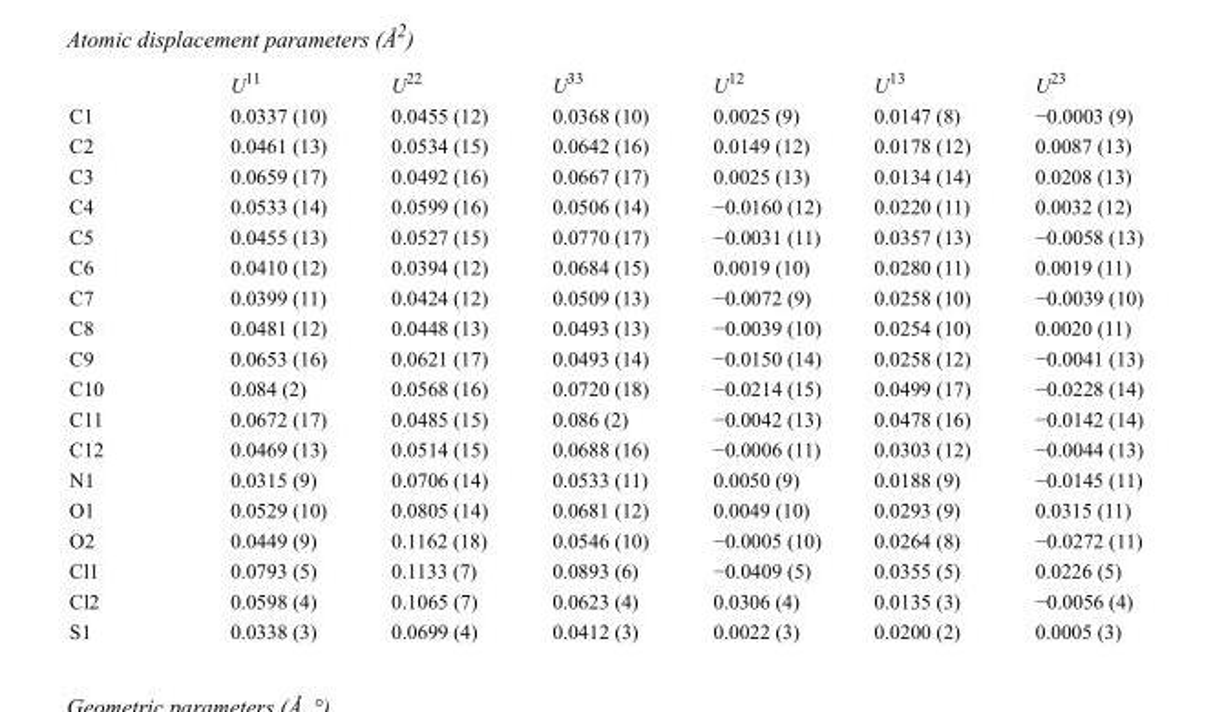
<table><thead><tr><td></td><td>U<sup>11</sup></td><td>U<sup>22</sup></td><td>U<sup>33</sup></td><td>U<sup>12</sup></td><td>U<sup>13</sup></td><td>U<sup>23</sup></td></tr></thead><tbody><tr><td>C1</td><td>0.0337 (10)</td><td>0.0455 (12)</td><td>0.0368 (10)</td><td>0.0025 (9)</td><td>0.0147 (8)</td><td>−0.0003 (9)</td></tr><tr><td>C2</td><td>0.0461 (13)</td><td>0.0534 (15)</td><td>0.0642 (16)</td><td>0.0149 (12)</td><td>0.0178 (12)</td><td>0.0087 (13)</td></tr><tr><td>C3</td><td>0.0659 (17)</td><td>0.0492 (16)</td><td>0.0667 (17)</td><td>0.0025 (13)</td><td>0.0134 (14)</td><td>0.0208 (13)</td></tr><tr><td>C4</td><td>0.0533 (14)</td><td>0.0599 (16)</td><td>0.0506 (14)</td><td>−0.0160 (12)</td><td>0.0220 (11)</td><td>0.0032 (12)</td></tr><tr><td>C5</td><td>0.0455 (13)</td><td>0.0527 (15)</td><td>0.0770 (17)</td><td>−0.0031 (11)</td><td>0.0357 (13)</td><td>−0.0058 (13)</td></tr><tr><td>C6</td><td>0.0410 (12)</td><td>0.0394 (12)</td><td>0.0684 (15)</td><td>0.0019 (10)</td><td>0.0280 (11)</td><td>0.0019 (11)</td></tr><tr><td>C7</td><td>0.0399 (11)</td><td>0.0424 (12)</td><td>0.0509 (13)</td><td>−0.0072 (9)</td><td>0.0258 (10)</td><td>−0.0039 (10)</td></tr><tr><td>C8</td><td>0.0481 (12)</td><td>0.0448 (13)</td><td>0.0493 (13)</td><td>−0.0039 (10)</td><td>0.0254 (10)</td><td>0.0020 (11)</td></tr><tr><td>C9</td><td>0.0653 (16)</td><td>0.0621 (17)</td><td>0.0493 (14)</td><td>−0.0150 (14)</td><td>0.0258 (12)</td><td>−0.0041 (13)</td></tr><tr><td>C10</td><td>0.084 (2)</td><td>0.0568 (16)</td><td>0.0720 (18)</td><td>−0.0214 (15)</td><td>0.0499 (17)</td><td>−0.0228 (14)</td></tr><tr><td>C11</td><td>0.0672 (17)</td><td>0.0485 (15)</td><td>0.086 (2)</td><td>−0.0042 (13)</td><td>0.0478 (16)</td><td>−0.0142 (14)</td></tr><tr><td>C12</td><td>0.0469 (13)</td><td>0.0514 (15)</td><td>0.0688 (16)</td><td>−0.0006 (11)</td><td>0.0303 (12)</td><td>−0.0044 (13)</td></tr><tr><td>N1</td><td>0.0315 (9)</td><td>0.0706 (14)</td><td>0.0533 (11)</td><td>0.0050 (9)</td><td>0.0188 (9)</td><td>−0.0145 (11)</td></tr><tr><td>O1</td><td>0.0529 (10)</td><td>0.0805 (14)</td><td>0.0681 (12)</td><td>0.0049 (10)</td><td>0.0293 (9)</td><td>0.0315 (11)</td></tr><tr><td>O2</td><td>0.0449 (9)</td><td>0.1162 (18)</td><td>0.0546 (10)</td><td>−0.0005 (10)</td><td>0.0264 (8)</td><td>−0.0272 (11)</td></tr><tr><td>Cl1</td><td>0.0793 (5)</td><td>0.1133 (7)</td><td>0.0893 (6)</td><td>−0.0409 (5)</td><td>0.0355 (5)</td><td>0.0226 (5)</td></tr><tr><td>Cl2</td><td>0.0598 (4)</td><td>0.1065 (7)</td><td>0.0623 (4)</td><td>0.0306 (4)</td><td>0.0135 (3)</td><td>−0.0056 (4)</td></tr><tr><td>S1</td><td>0.0338 (3)</td><td>0.0699 (4)</td><td>0.0412 (3)</td><td>0.0022 (3)</td><td>0.0200 (2)</td><td>0.0005 (3)</td></tr></tbody></table>